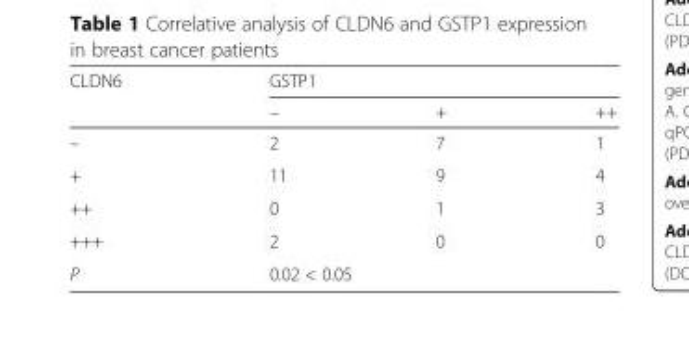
<table><thead><tr><td rowspan="2">CLDN6</td><td colspan="3">GSTP1</td></tr><tr><td>–</td><td>+</td><td>++</td></tr></thead><tbody><tr><td>–</td><td>2</td><td>7</td><td>1</td></tr><tr><td>+</td><td>11</td><td>9</td><td>4</td></tr><tr><td>++</td><td>0</td><td>1</td><td>3</td></tr><tr><td>+++</td><td>2</td><td>0</td><td>0</td></tr><tr><td>P</td><td colspan="3">0.02 &lt; 0.05</td></tr></tbody></table>